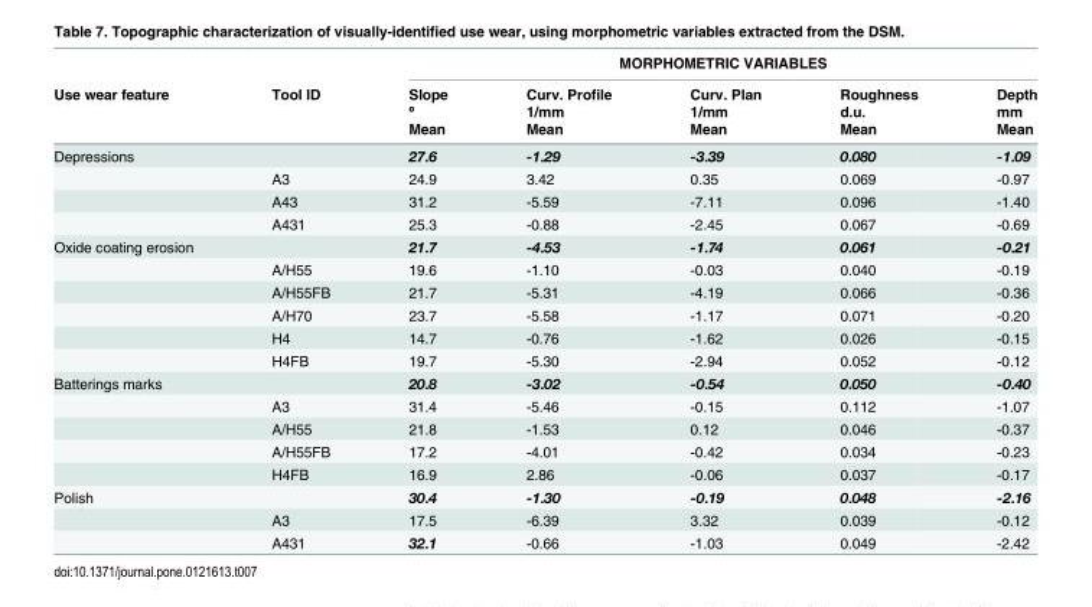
<table><thead><tr><td rowspan="4">Use wear feature</td><td rowspan="4">Tool ID</td><td colspan="5">MORPHOMETRIC VARIABLES</td></tr><tr><td rowspan="3">Slope º Mean</td><td rowspan="3">Curv. Profile 1/mm Mean</td><td rowspan="3">Curv. Plan 1/mm Mean</td><td rowspan="3">Roughness d.u. Mean</td><td rowspan="3">Depth mm Mean</td></tr><tr></tr><tr></tr></thead><tbody><tr><td rowspan="4">Depressions</td><td></td><td>27.6</td><td>-1.29</td><td>-3.39</td><td>0.080</td><td>-1.09</td></tr><tr><td>A3</td><td>24.9</td><td>3.42</td><td>0.35</td><td>0.069</td><td>-0.97</td></tr><tr><td>A43</td><td>31.2</td><td>-5.59</td><td>-7.11</td><td>0.096</td><td>-1.40</td></tr><tr><td>A431</td><td>25.3</td><td>-0.88</td><td>-2.45</td><td>0.067</td><td>-0.69</td></tr><tr><td rowspan="6">Oxide coating erosion</td><td></td><td>21.7</td><td>-4.53</td><td>-1.74</td><td>0.061</td><td>-0.21</td></tr><tr><td>A/H55</td><td>19.6</td><td>-1.10</td><td>-0.03</td><td>0.040</td><td>-0.19</td></tr><tr><td>A/H55FB</td><td>21.7</td><td>-5.31</td><td>-4.19</td><td>0.066</td><td>-0.36</td></tr><tr><td>A/H70</td><td>23.7</td><td>-5.58</td><td>-1.17</td><td>0.071</td><td>-0.20</td></tr><tr><td>H4</td><td>14.7</td><td>-0.76</td><td>-1.62</td><td>0.026</td><td>-0.15</td></tr><tr><td>H4FB</td><td>19.7</td><td>-5.30</td><td>-2.94</td><td>0.052</td><td>-0.12</td></tr><tr><td rowspan="5">Batterings marks</td><td></td><td>20.8</td><td>-3.02</td><td>-0.54</td><td>0.050</td><td>-0.40</td></tr><tr><td>A3</td><td>31.4</td><td>-5.46</td><td>-0.15</td><td>0.112</td><td>-1.07</td></tr><tr><td>A/H55</td><td>21.8</td><td>-1.53</td><td>0.12</td><td>0.046</td><td>-0.37</td></tr><tr><td>A/H55FB</td><td>17.2</td><td>-4.01</td><td>-0.42</td><td>0.034</td><td>-0.23</td></tr><tr><td>H4FB</td><td>16.9</td><td>2.86</td><td>-0.06</td><td>0.037</td><td>-0.17</td></tr><tr><td rowspan="3">Polish</td><td></td><td>30.4</td><td>-1.30</td><td>-0.19</td><td>0.048</td><td>-2.16</td></tr><tr><td>A3</td><td>17.5</td><td>-6.39</td><td>3.32</td><td>0.039</td><td>-0.12</td></tr><tr><td>A431</td><td>32.1</td><td>-0.66</td><td>-1.03</td><td>0.049</td><td>-2.42</td></tr></tbody></table>